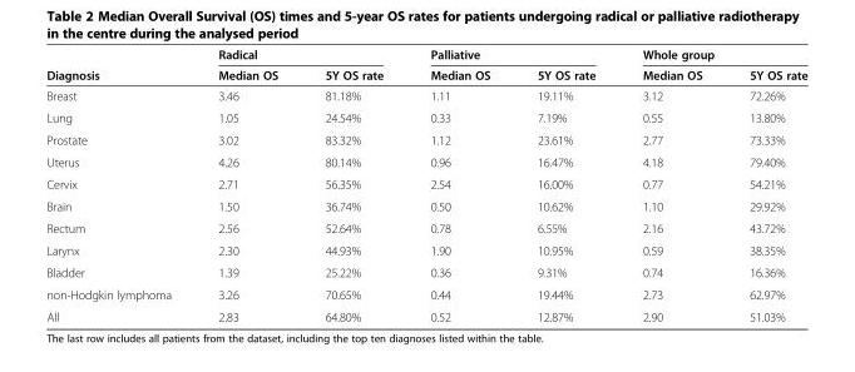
<table><thead><tr><td rowspan="2">Diagnosis</td><td colspan="2">Radical</td><td colspan="2">Palliative</td><td colspan="2">Whole group</td></tr><tr><td>Median OS</td><td>5Y OS rate</td><td>Median OS</td><td>5Y OS rate</td><td>Median OS</td><td>5Y OS rate</td></tr></thead><tbody><tr><td>Breast</td><td>3.46</td><td>81.18%</td><td>1.11</td><td>19.11%</td><td>3.12</td><td>72.26%</td></tr><tr><td>Lung</td><td>1.05</td><td>24.54%</td><td>0.33</td><td>7.19%</td><td>0.55</td><td>13.80%</td></tr><tr><td>Prostate</td><td>3.02</td><td>83.32%</td><td>1.12</td><td>23.61%</td><td>2.77</td><td>73.33%</td></tr><tr><td>Uterus</td><td>4.26</td><td>80.14%</td><td>0.96</td><td>16.47%</td><td>4.18</td><td>79.40%</td></tr><tr><td>Cervix</td><td>2.71</td><td>56.35%</td><td>2.54</td><td>16.00%</td><td>0.77</td><td>54.21%</td></tr><tr><td>Brain</td><td>1.50</td><td>36.74%</td><td>0.50</td><td>10.62%</td><td>1.10</td><td>29.92%</td></tr><tr><td>Rectum</td><td>2.56</td><td>52.64%</td><td>0.78</td><td>6.55%</td><td>2.16</td><td>43.72%</td></tr><tr><td>Larynx</td><td>2.30</td><td>44.93%</td><td>1.90</td><td>10.95%</td><td>0.59</td><td>38.35%</td></tr><tr><td>Bladder</td><td>1.39</td><td>25.22%</td><td>0.36</td><td>9.31%</td><td>0.74</td><td>16.36%</td></tr><tr><td>non-Hodgkin lymphoma</td><td>3.26</td><td>70.65%</td><td>0.44</td><td>19.44%</td><td>2.73</td><td>62.97%</td></tr><tr><td>All</td><td>2.83</td><td>64.80%</td><td>0.52</td><td>12.87%</td><td>2.90</td><td>51.03%</td></tr></tbody></table>